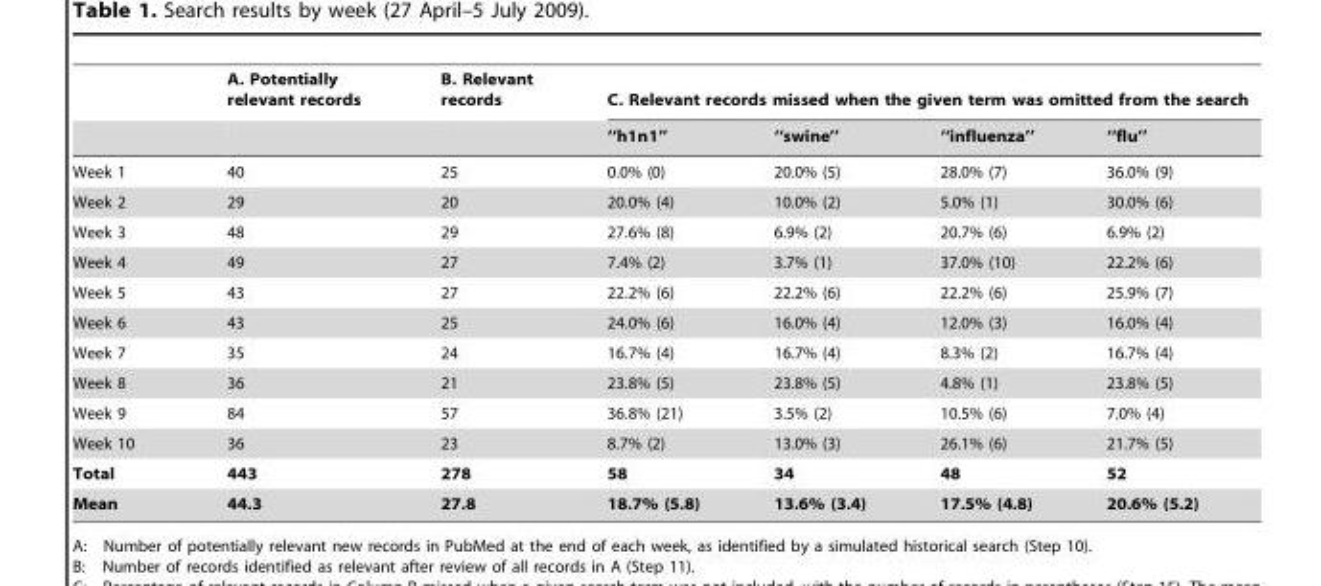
<table><thead><tr><td rowspan="2"></td><td rowspan="2">A. Potentially relevant records</td><td rowspan="2">B. Relevant records</td><td colspan="4">C. Relevant records missed when the given term was omitted from the search</td></tr><tr><td>‘‘h1n1’’</td><td>‘‘swine’’</td><td>‘‘influenza’’</td><td>‘‘flu’’</td></tr></thead><tbody><tr><td>Week 1</td><td>40</td><td>25</td><td>0.0% (0)</td><td>20.0% (5)</td><td>28.0% (7)</td><td>36.0% (9)</td></tr><tr><td>Week 2</td><td>29</td><td>20</td><td>20.0% (4)</td><td>10.0% (2)</td><td>5.0% (1)</td><td>30.0% (6)</td></tr><tr><td>Week 3</td><td>48</td><td>29</td><td>27.6% (8)</td><td>6.9% (2)</td><td>20.7% (6)</td><td>6.9% (2)</td></tr><tr><td>Week 4</td><td>49</td><td>27</td><td>7.4% (2)</td><td>3.7% (1)</td><td>37.0% (10)</td><td>22.2% (6)</td></tr><tr><td>Week 5</td><td>43</td><td>27</td><td>22.2% (6)</td><td>22.2% (6)</td><td>22.2% (6)</td><td>25.9% (7)</td></tr><tr><td>Week 6</td><td>43</td><td>25</td><td>24.0% (6)</td><td>16.0% (4)</td><td>12.0% (3)</td><td>16.0% (4)</td></tr><tr><td>Week 7</td><td>35</td><td>24</td><td>16.7% (4)</td><td>16.7% (4)</td><td>8.3% (2)</td><td>16.7% (4)</td></tr><tr><td>Week 8</td><td>36</td><td>21</td><td>23.8% (5)</td><td>23.8% (5)</td><td>4.8% (1)</td><td>23.8% (5)</td></tr><tr><td>Week 9</td><td>84</td><td>57</td><td>36.8% (21)</td><td>3.5% (2)</td><td>10.5% (6)</td><td>7.0% (4)</td></tr><tr><td>Week 10</td><td>36</td><td>23</td><td>8.7% (2)</td><td>13.0% (3)</td><td>26.1% (6)</td><td>21.7% (5)</td></tr><tr><td>Total</td><td>443</td><td>278</td><td>58</td><td>34</td><td>48</td><td>52</td></tr><tr><td>Mean</td><td>44.3</td><td>27.8</td><td>18.7% (5.8)</td><td>13.6% (3.4)</td><td>17.5% (4.8)</td><td>20.6% (5.2)</td></tr></tbody></table>